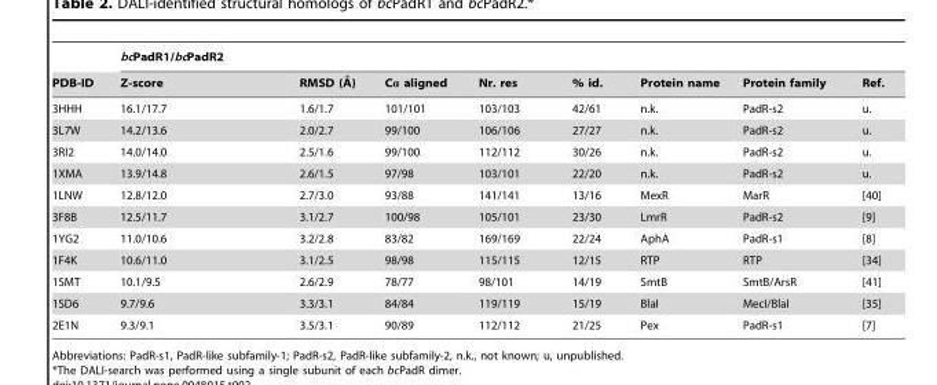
<table><thead><tr><td rowspan="2">PDB-ID</td><td colspan="8">bcPadR1/bcPadR2</td></tr><tr><td>Z-score</td><td>RMSD (A˚ )</td><td>Cα aligned</td><td>Nr. res</td><td>% id.</td><td>Protein name</td><td>Protein family</td><td>Ref.</td></tr></thead><tbody><tr><td>3HHH</td><td>16.1/17.7</td><td>1.6/1.7</td><td>101/101</td><td>103/103</td><td>42/61</td><td>n.k.</td><td>PadR-s2</td><td>u.</td></tr><tr><td>3L7W</td><td>14.2/13.6</td><td>2.0/2.7</td><td>99/100</td><td>106/106</td><td>27/27</td><td>n.k.</td><td>PadR-s2</td><td>u.</td></tr><tr><td>3RI2</td><td>14.0/14.0</td><td>2.5/1.6</td><td>99/100</td><td>112/112</td><td>30/26</td><td>n.k.</td><td>PadR-s2</td><td>u.</td></tr><tr><td>1XMA</td><td>13.9/14.8</td><td>2.6/1.5</td><td>97/98</td><td>103/101</td><td>22/20</td><td>n.k.</td><td>PadR-s2</td><td>u.</td></tr><tr><td>1LNW</td><td>12.8/12.0</td><td>2.7/3.0</td><td>93/88</td><td>141/141</td><td>13/16</td><td>MexR</td><td>MarR</td><td>[40]</td></tr><tr><td>3F8B</td><td>12.5/11.7</td><td>3.1/2.7</td><td>100/98</td><td>105/101</td><td>23/30</td><td>LmrR</td><td>PadR-s2</td><td>[9]</td></tr><tr><td>1YG2</td><td>11.0/10.6</td><td>3.2/2.8</td><td>83/82</td><td>169/169</td><td>22/24</td><td>AphA</td><td>PadR-s1</td><td>[8]</td></tr><tr><td>1F4K</td><td>10.6/11.0</td><td>3.1/2.5</td><td>98/98</td><td>115/115</td><td>12/15</td><td>RTP</td><td>RTP</td><td>[34]</td></tr><tr><td>1SMT</td><td>10.1/9.5</td><td>2.6/2.9</td><td>78/77</td><td>98/101</td><td>14/19</td><td>SmtB</td><td>SmtB/ArsR</td><td>[41]</td></tr><tr><td>1SD6</td><td>9.7/9.6</td><td>3.3/3.1</td><td>84/84</td><td>119/119</td><td>15/19</td><td>BlaI</td><td>MecI/BlaI</td><td>[35]</td></tr><tr><td>2E1N</td><td>9.3/9.1</td><td>3.5/3.1</td><td>90/89</td><td>112/112</td><td>21/25</td><td>Pex</td><td>PadR-s1</td><td>[7]</td></tr></tbody></table>